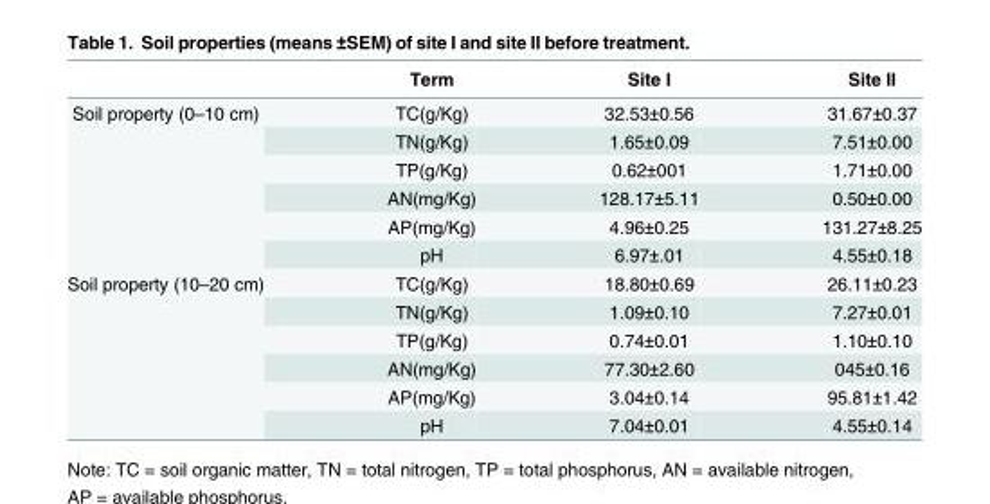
<table><thead><tr><td></td><td>Term</td><td>Site I</td><td>Site II</td></tr></thead><tbody><tr><td rowspan="6">Soil property (0–10 cm)</td><td>TC(g/Kg)</td><td>32.53±0.56</td><td>31.67±0.37</td></tr><tr><td>TN(g/Kg)</td><td>1.65±0.09</td><td>7.51±0.00</td></tr><tr><td>TP(g/Kg)</td><td>0.62±001</td><td>1.71±0.00</td></tr><tr><td>AN(mg/Kg)</td><td>128.17±5.11</td><td>0.50±0.00</td></tr><tr><td>AP(mg/Kg)</td><td>4.96±0.25</td><td>131.27±8.25</td></tr><tr><td>pH</td><td>6.97±.01</td><td>4.55±0.18</td></tr><tr><td rowspan="6">Soil property (10–20 cm)</td><td>TC(g/Kg)</td><td>18.80±0.69</td><td>26.11±0.23</td></tr><tr><td>TN(g/Kg)</td><td>1.09±0.10</td><td>7.27±0.01</td></tr><tr><td>TP(g/Kg)</td><td>0.74±0.01</td><td>1.10±0.10</td></tr><tr><td>AN(mg/Kg)</td><td>77.30±2.60</td><td>045±0.16</td></tr><tr><td>AP(mg/Kg)</td><td>3.04±0.14</td><td>95.81±1.42</td></tr><tr><td>pH</td><td>7.04±0.01</td><td>4.55±0.14</td></tr></tbody></table>